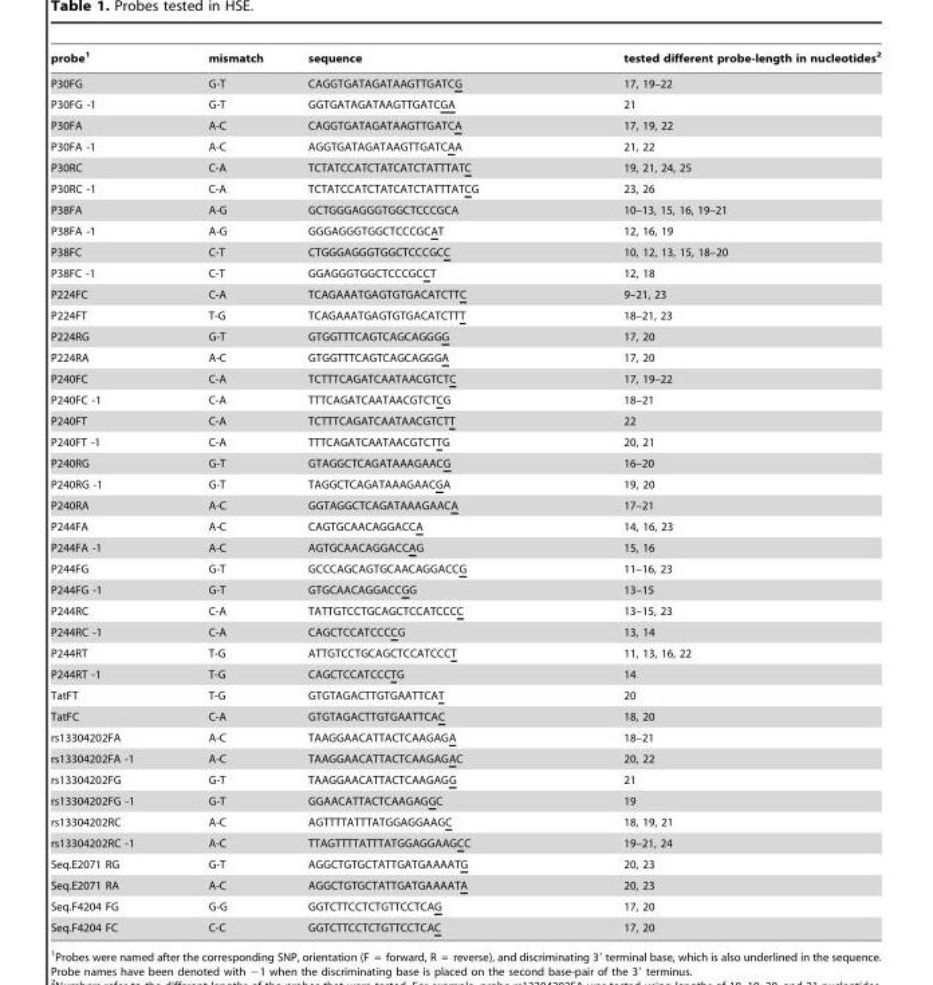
<table><thead><tr><td>probe<sup>1</sup></td><td>mismatch</td><td>sequence</td><td>tested different probe-length in nucleotides<sup>2</sup></td></tr></thead><tbody><tr><td>P30FG</td><td>G-T</td><td>CAGGTGATAGATAAGTTGATCG</td><td>17, 19–22</td></tr><tr><td>P30FG -1</td><td>G-T</td><td>GGTGATAGATAAGTTGATCGA</td><td>21</td></tr><tr><td>P30FA</td><td>A-C</td><td>CAGGTGATAGATAAGTTGATCA</td><td>17, 19, 22</td></tr><tr><td>P30FA -1</td><td>A-C</td><td>AGGTGATAGATAAGTTGATCAA</td><td>21, 22</td></tr><tr><td>P30RC</td><td>C-A</td><td>TCTATCCATCTATCATCTATTTATC</td><td>19, 21, 24, 25</td></tr><tr><td>P30RC -1</td><td>C-A</td><td>TCTATCCATCTATCATCTATTTATCG</td><td>23, 26</td></tr><tr><td>P38FA</td><td>A-G</td><td>GCTGGGAGGGTGGCTCCCGCA</td><td>10–13, 15, 16, 19–21</td></tr><tr><td>P38FA -1</td><td>A-G</td><td>GGGAGGGTGGCTCCCGCAT</td><td>12, 16, 19</td></tr><tr><td>P38FC</td><td>C-T</td><td>CTGGGAGGGTGGCTCCCGCC</td><td>10, 12, 13, 15, 18–20</td></tr><tr><td>P38FC -1</td><td>C-T</td><td>GGAGGGTGGCTCCCGCCT</td><td>12, 18</td></tr><tr><td>P224FC</td><td>C-A</td><td>TCAGAAATGAGTGTGACATCTTC</td><td>9–21, 23</td></tr><tr><td>P224FT</td><td>T-G</td><td>TCAGAAATGAGTGTGACATCTTT</td><td>18–21, 23</td></tr><tr><td>P224RG</td><td>G-T</td><td>GTGGTTTCAGTCAGCAGGGG</td><td>17, 20</td></tr><tr><td>P224RA</td><td>A-C</td><td>GTGGTTTCAGTCAGCAGGGA</td><td>17, 20</td></tr><tr><td>P240FC</td><td>C-A</td><td>TCTTTCAGATCAATAACGTCTC</td><td>17, 19–22</td></tr><tr><td>P240FC -1</td><td>C-A</td><td>TTTCAGATCAATAACGTCTCG</td><td>18–21</td></tr><tr><td>P240FT</td><td>C-A</td><td>TCTTTCAGATCAATAACGTCTT</td><td>22</td></tr><tr><td>P240FT -1</td><td>C-A</td><td>TTTCAGATCAATAACGTCTTG</td><td>20, 21</td></tr><tr><td>P240RG</td><td>G-T</td><td>GTAGGCTCAGATAAAGAACG</td><td>16–20</td></tr><tr><td>P240RG -1</td><td>G-T</td><td>TAGGCTCAGATAAAGAACGA</td><td>19, 20</td></tr><tr><td>P240RA</td><td>A-C</td><td>GGTAGGCTCAGATAAAGAACA</td><td>17–21</td></tr><tr><td>P244FA</td><td>A-C</td><td>CAGTGCAACAGGACCA</td><td>14, 16, 23</td></tr><tr><td>P244FA -1</td><td>A-C</td><td>AGTGCAACAGGACCAG</td><td>15, 16</td></tr><tr><td>P244FG</td><td>G-T</td><td>GCCCAGCAGTGCAACAGGACCG</td><td>11–16, 23</td></tr><tr><td>P244FG -1</td><td>G-T</td><td>GTGCAACAGGACCGG</td><td>13–15</td></tr><tr><td>P244RC</td><td>C-A</td><td>TATTGTCCTGCAGCTCCATCCCC</td><td>13–15, 23</td></tr><tr><td>P244RC -1</td><td>C-A</td><td>CAGCTCCATCCCCG</td><td>13, 14</td></tr><tr><td>P244RT</td><td>T-G</td><td>ATTGTCCTGCAGCTCCATCCCT</td><td>11, 13, 16, 22</td></tr><tr><td>P244RT -1</td><td>T-G</td><td>CAGCTCCATCCCTG</td><td>14</td></tr><tr><td>TatFT</td><td>T-G</td><td>GTGTAGACTTGTGAATTCAT</td><td>20</td></tr><tr><td>TatFC</td><td>C-A</td><td>GTGTAGACTTGTGAATTCAC</td><td>18, 20</td></tr><tr><td>rs13304202FA</td><td>A-C</td><td>TAAGGAACATTACTCAAGAGA</td><td>18–21</td></tr><tr><td>rs13304202FA -1</td><td>A-C</td><td>TAAGGAACATTACTCAAGAGAC</td><td>20, 22</td></tr><tr><td>rs13304202FG</td><td>G-T</td><td>TAAGGAACATTACTCAAGAGG</td><td>21</td></tr><tr><td>rs13304202FG -1</td><td>G-T</td><td>GGAACATTACTCAAGAGGC</td><td>19</td></tr><tr><td>rs13304202RC</td><td>A-C</td><td>AGTTTTATTTATGGAGGAAGC</td><td>18, 19, 21</td></tr><tr><td>rs13304202RC -1</td><td>A-C</td><td>TTAGTTTTATTTATGGAGGAAGCC</td><td>19–21, 24</td></tr><tr><td>Seq.E2071 RG</td><td>G-T</td><td>AGGCTGTGCTATTGATGAAAATG</td><td>20, 23</td></tr><tr><td>Seq.E2071 RA</td><td>A-C</td><td>AGGCTGTGCTATTGATGAAAATA</td><td>20, 23</td></tr><tr><td>Seq.F4204 FG</td><td>G-G</td><td>GGTCTTCCTCTGTTCCTCAG</td><td>17, 20</td></tr><tr><td>Seq.F4204 FC</td><td>C-C</td><td>GGTCTTCCTCTGTTCCTCAC</td><td>17, 20</td></tr></tbody></table>